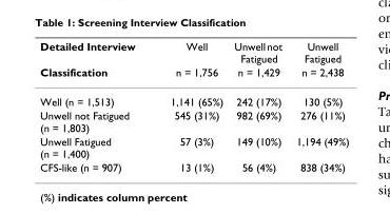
<table><thead><tr><td rowspan="2">Detailed Interview Classification</td><td rowspan="2">Well n = 1,756</td><td rowspan="2">Unwell not Fatigued n = 1,429</td><td rowspan="2">Unwell Fatigued n = 2,438</td></tr><tr></tr></thead><tbody><tr><td>Well (n = 1,513)</td><td>1,141 (65%)</td><td>242 (17%)</td><td>130 (5%)</td></tr><tr><td>Unwell not Fatigued (n = 1,803)</td><td>545 (31%)</td><td>982 (69%)</td><td>276 (11%)</td></tr><tr><td>Unwell Fatigued (n = 1,400)</td><td>57 (3%)</td><td>149 (10%)</td><td>1,194 (49%)</td></tr><tr><td>CFS-like (n = 907)</td><td>13 (1%)</td><td>56 (4%)</td><td>838 (34%)</td></tr></tbody></table>